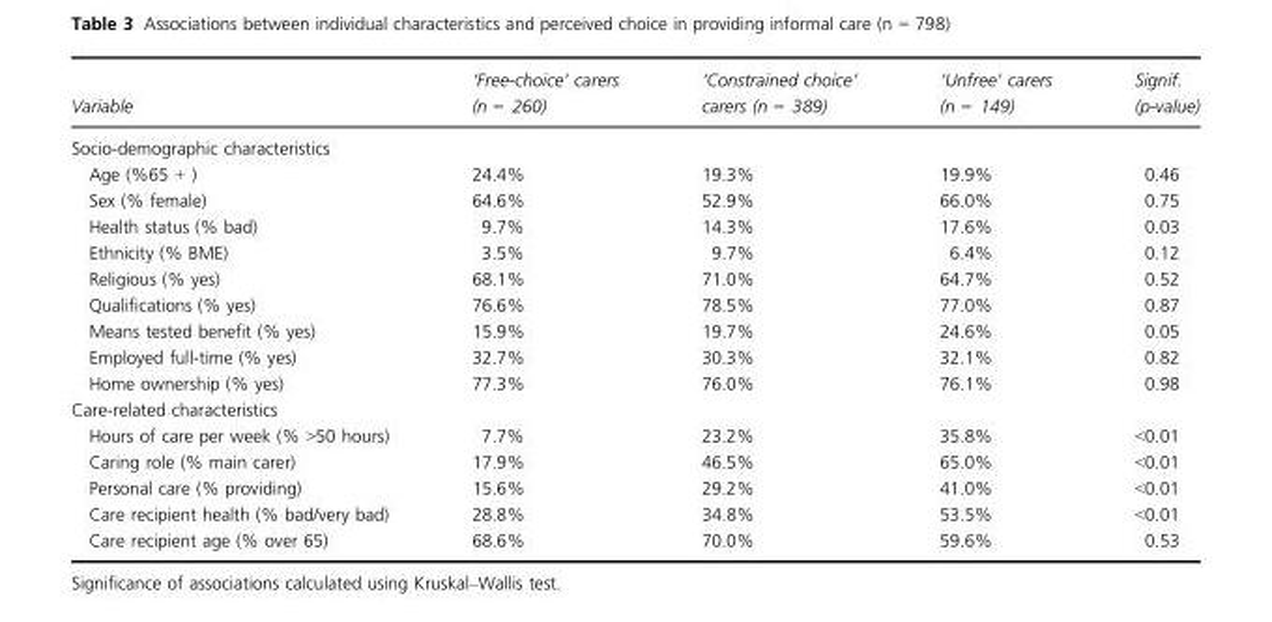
<table><thead><tr><td>Variable</td><td>‘Free-choice’ carers (n = 260)</td><td>‘Constrained choice’ carers (n = 389)</td><td>‘Unfree’ carers (n = 149)</td><td>Signif. (p-value)</td></tr></thead><tbody><tr><td colspan="5">Socio-demographic characteristics</td></tr><tr><td>Age (%65 + )</td><td>24.4%</td><td>19.3%</td><td>19.9%</td><td>0.46</td></tr><tr><td>Sex (% female)</td><td>64.6%</td><td>52.9%</td><td>66.0%</td><td>0.75</td></tr><tr><td>Health status (% bad)</td><td>9.7%</td><td>14.3%</td><td>17.6%</td><td>0.03</td></tr><tr><td>Ethnicity (% BME)</td><td>3.5%</td><td>9.7%</td><td>6.4%</td><td>0.12</td></tr><tr><td>Religious (% yes)</td><td>68.1%</td><td>71.0%</td><td>64.7%</td><td>0.52</td></tr><tr><td>Qualifications (% yes)</td><td>76.6%</td><td>78.5%</td><td>77.0%</td><td>0.87</td></tr><tr><td>Means tested benefit (% yes)</td><td>15.9%</td><td>19.7%</td><td>24.6%</td><td>0.05</td></tr><tr><td>Employed full-time (% yes)</td><td>32.7%</td><td>30.3%</td><td>32.1%</td><td>0.82</td></tr><tr><td>Home ownership (% yes)</td><td>77.3%</td><td>76.0%</td><td>76.1%</td><td>0.98</td></tr><tr><td colspan="5">Care-related characteristics</td></tr><tr><td>Hours of care per week (% &gt;50 hours)</td><td>7.7%</td><td>23.2%</td><td>35.8%</td><td>&lt;0.01</td></tr><tr><td>Caring role (% main carer)</td><td>17.9%</td><td>46.5%</td><td>65.0%</td><td>&lt;0.01</td></tr><tr><td>Personal care (% providing)</td><td>15.6%</td><td>29.2%</td><td>41.0%</td><td>&lt;0.01</td></tr><tr><td>Care recipient health (% bad/very bad)</td><td>28.8%</td><td>34.8%</td><td>53.5%</td><td>&lt;0.01</td></tr><tr><td>Care recipient age (% over 65)</td><td>68.6%</td><td>70.0%</td><td>59.6%</td><td>0.53</td></tr></tbody></table>